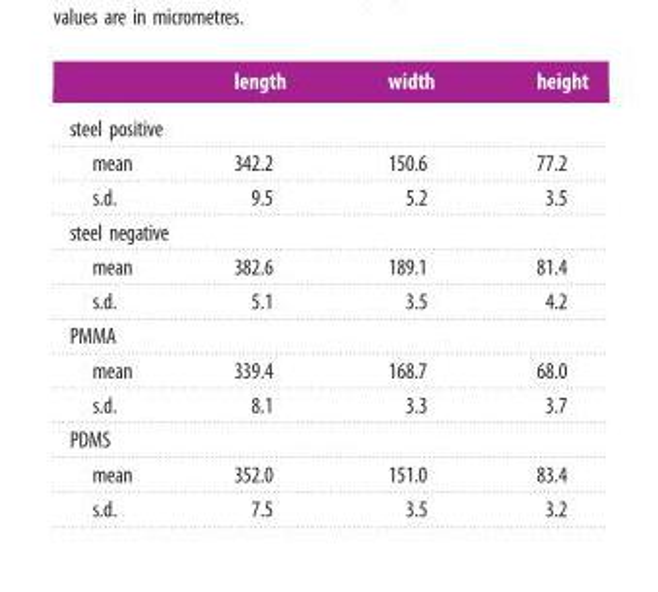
<table><thead><tr><td></td><td>length</td><td>width</td><td>height</td></tr></thead><tbody><tr><td colspan="4">steel positive</td></tr><tr><td>mean</td><td>342.2</td><td>150.6</td><td>77.2</td></tr><tr><td>s.d.</td><td>9.5</td><td>5.2</td><td>3.5</td></tr><tr><td colspan="4">steel negative</td></tr><tr><td>mean</td><td>382.6</td><td>189.1</td><td>81.4</td></tr><tr><td>s.d.</td><td>5.1</td><td>3.5</td><td>4.2</td></tr><tr><td colspan="4">PMMA</td></tr><tr><td>mean</td><td>339.4</td><td>168.7</td><td>68.0</td></tr><tr><td>s.d.</td><td>8.1</td><td>3.3</td><td>3.7</td></tr><tr><td colspan="4">PDMS</td></tr><tr><td>mean</td><td>352.0</td><td>151.0</td><td>83.4</td></tr><tr><td>s.d.</td><td>7.5</td><td>3.5</td><td>3.2</td></tr></tbody></table>